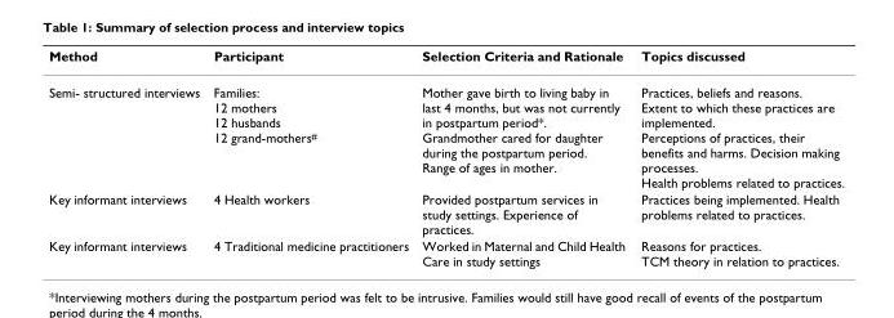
<table><thead><tr><td>Method</td><td>Participant</td><td>Selection Criteria and Rationale</td><td>Topics discussed</td></tr></thead><tbody><tr><td>Semi- structured interviews</td><td>Families: 12 mothers 12 husbands 12 grand-mothers<sup>#</sup></td><td>Mother gave birth to living baby in last 4 months, but was not currently in postpartum period*. Grandmother cared for daughter during the postpartum period. Range of ages in mother.</td><td>Practices, beliefs and reasons. Extent to which these practices are implemented. Perceptions of practices, their benefits and harms. Decision making processes. Health problems related to practices.</td></tr><tr><td>Key informant interviews</td><td>4 Health workers</td><td>Provided postpartum services in study settings. Experience of practices.</td><td>Practices being implemented. Health problems related to practices.</td></tr><tr><td>Key informant interviews</td><td>4 Traditional medicine practitioners</td><td>Worked in Maternal and Child Health Care in study settings</td><td>Reasons for practices. TCM theory in relation to practices.</td></tr></tbody></table>